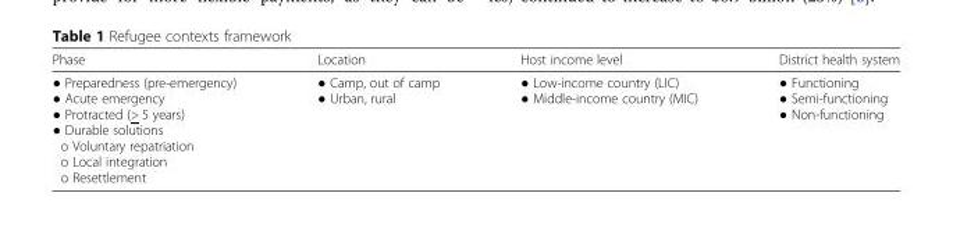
<table><thead><tr><td>Phase</td><td>Location</td><td>Host income level</td><td>District health system</td></tr></thead><tbody><tr><td>● Preparedness (pre-emergency) ● Acute emergency ● Protracted (&gt; 5 years) ● Durable solutions o Voluntary repatriation o Local integration o Resettlement</td><td>● Camp, out of camp ● Urban, rural</td><td>● Low-income country (LIC) ● Middle-income country (MIC)</td><td>● Functioning ● Semi-functioning ● Non-functioning</td></tr></tbody></table>